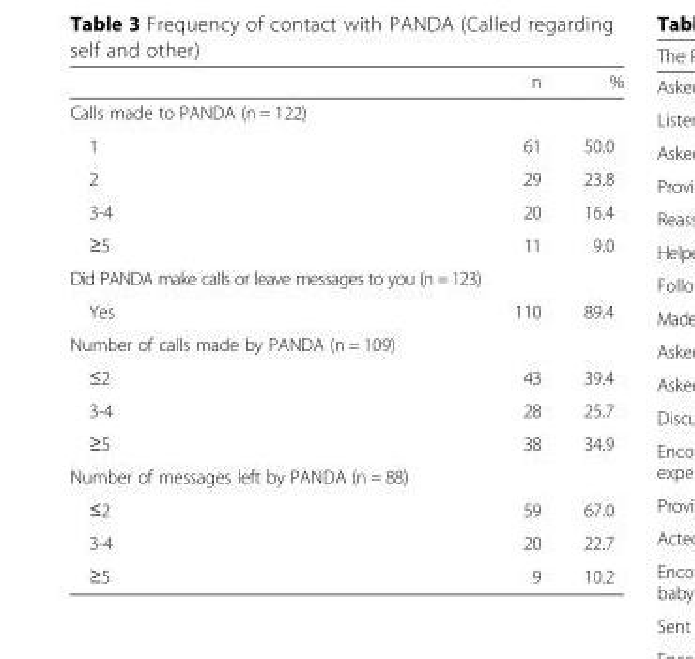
<table><thead><tr><td></td><td>n</td><td>%</td></tr></thead><tbody><tr><td colspan="3">Calls made to PANDA (n = 122)</td></tr><tr><td>1</td><td>61</td><td>50.0</td></tr><tr><td>2</td><td>29</td><td>23.8</td></tr><tr><td>3-4</td><td>20</td><td>16.4</td></tr><tr><td>≥5</td><td>11</td><td>9.0</td></tr><tr><td colspan="3">Did PANDA make calls or leave messages to you (n = 123)</td></tr><tr><td>Yes</td><td>110</td><td>89.4</td></tr><tr><td colspan="3">Number of calls made by PANDA (n = 109)</td></tr><tr><td>≤2</td><td>43</td><td>39.4</td></tr><tr><td>3-4</td><td>28</td><td>25.7</td></tr><tr><td>≥5</td><td>38</td><td>34.9</td></tr><tr><td colspan="3">Number of messages left by PANDA (n = 88)</td></tr><tr><td>≤2</td><td>59</td><td>67.0</td></tr><tr><td>3-4</td><td>20</td><td>22.7</td></tr><tr><td>≥5</td><td>9</td><td>10.2</td></tr></tbody></table>